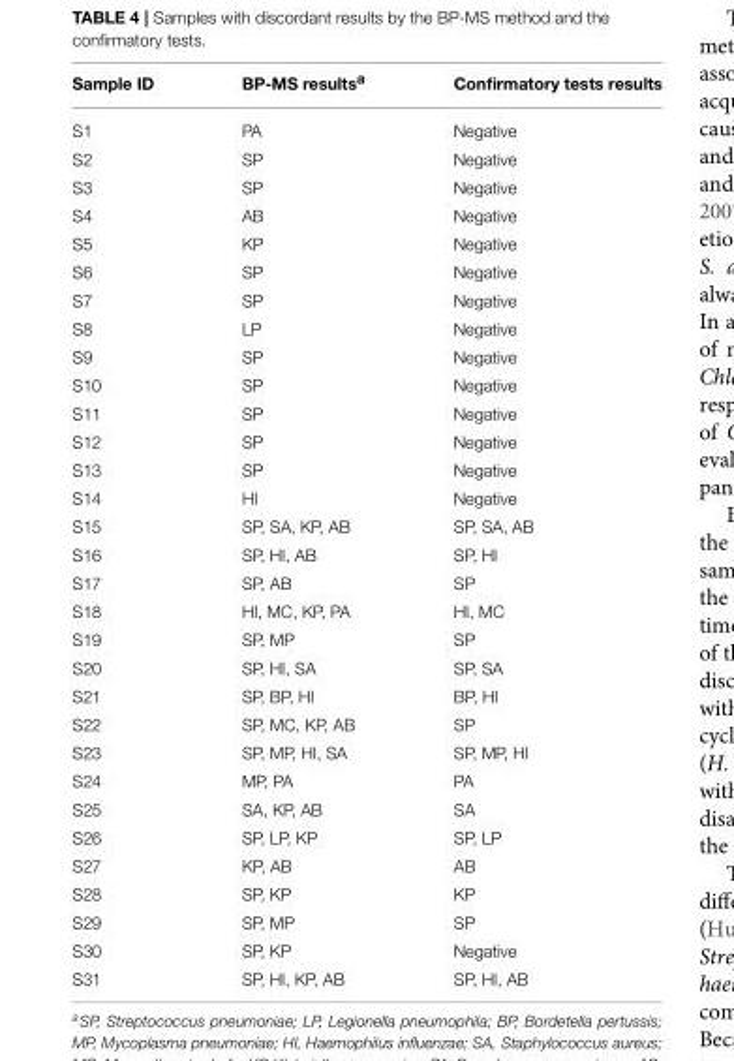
<table><thead><tr><td>Sample ID</td><td>BP-MS results<sup>a</sup></td><td>Confirmatory tests results</td></tr></thead><tbody><tr><td>S1</td><td>PA</td><td>Negative</td></tr><tr><td>S2</td><td>SP</td><td>Negative</td></tr><tr><td>S3</td><td>SP</td><td>Negative</td></tr><tr><td>S4</td><td>AB</td><td>Negative</td></tr><tr><td>S5</td><td>KP</td><td>Negative</td></tr><tr><td>S6</td><td>SP</td><td>Negative</td></tr><tr><td>S7</td><td>SP</td><td>Negative</td></tr><tr><td>S8</td><td>LP</td><td>Negative</td></tr><tr><td>S9</td><td>SP</td><td>Negative</td></tr><tr><td>S10</td><td>SP</td><td>Negative</td></tr><tr><td>S11</td><td>SP</td><td>Negative</td></tr><tr><td>S12</td><td>SP</td><td>Negative</td></tr><tr><td>S13</td><td>SP</td><td>Negative</td></tr><tr><td>S14</td><td>HI</td><td>Negative</td></tr><tr><td>S15</td><td>SP, SA, KP, AB</td><td>SP, SA, AB</td></tr><tr><td>S16</td><td>SP, HI, AB</td><td>SP, HI</td></tr><tr><td>S17</td><td>SP, AB</td><td>SP</td></tr><tr><td>S18</td><td>HI, MC, KP, PA</td><td>HI, MC</td></tr><tr><td>S19</td><td>SP, MP</td><td>SP</td></tr><tr><td>S20</td><td>SP, HI, SA</td><td>SP, SA</td></tr><tr><td>S21</td><td>SP, BP, HI</td><td>BP, HI</td></tr><tr><td>S22</td><td>SP, MC, KP, AB</td><td>SP</td></tr><tr><td>S23</td><td>SP, MP, HI, SA</td><td>SP, MP, HI</td></tr><tr><td>S24</td><td>MP, PA</td><td>PA</td></tr><tr><td>S25</td><td>SA, KP, AB</td><td>SA</td></tr><tr><td>S26</td><td>SP, LP, KP</td><td>SP, LP</td></tr><tr><td>S27</td><td>KP, AB</td><td>AB</td></tr><tr><td>S28</td><td>SP, KP</td><td>KP</td></tr><tr><td>S29</td><td>SP, MP</td><td>SP</td></tr><tr><td>S30</td><td>SP, KP</td><td>Negative</td></tr><tr><td>S31</td><td>SP, HI, KP, AB</td><td>SP, HI, AB</td></tr></tbody></table>